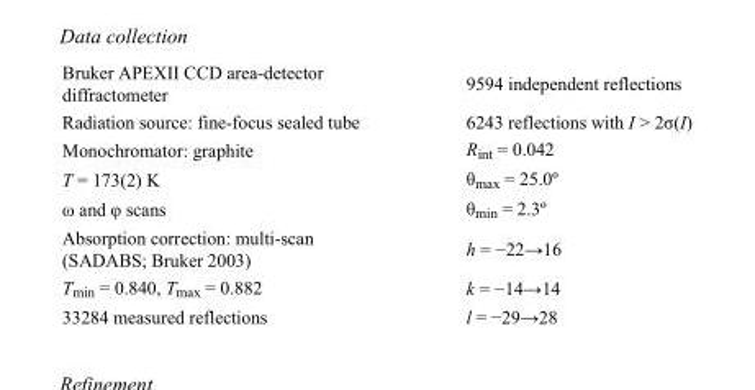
<table><tbody><tr><td>Bruker APEXII CCD area-detector diffractometer</td><td>9594 independent reflections</td></tr><tr><td>Radiation source: fine-focus sealed tube</td><td>6243 reflections with I &gt; 2σ(I)</td></tr><tr><td>Monochromator: graphite</td><td>R<sub>int</sub> = 0.042</td></tr><tr><td>T = 173(2) K</td><td>θ<sub>max</sub> = 25.0º</td></tr><tr><td>ω and φ scans</td><td>θ<sub>min</sub> = 2.3º</td></tr><tr><td>Absorption correction: multi-scan (SADABS; Bruker 2003)</td><td>h = −22→16</td></tr><tr><td>T<sub>min</sub> = 0.840, T<sub>max</sub> = 0.882</td><td>k = −14→14</td></tr><tr><td>33284 measured reflections</td><td>l = −29→28</td></tr></tbody></table>